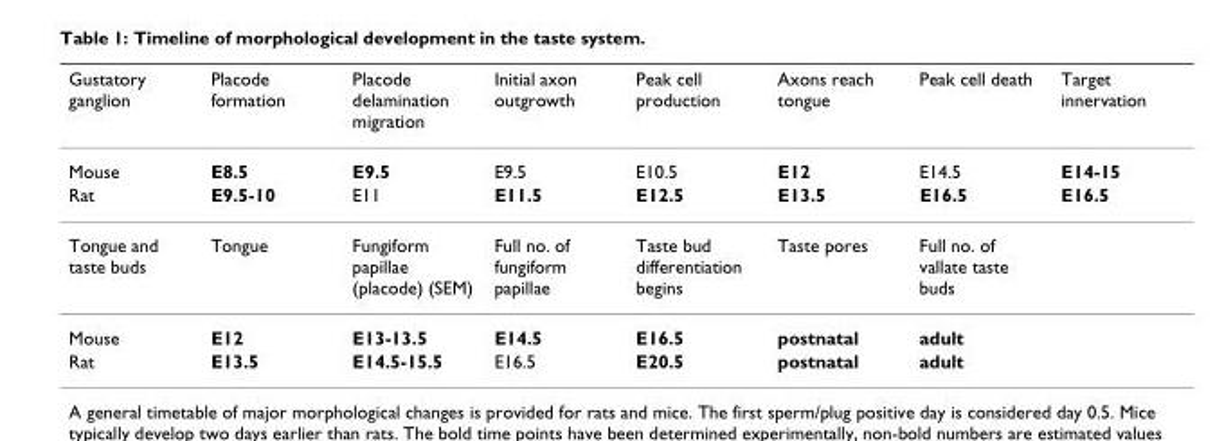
<table><thead><tr><td>Gustatory ganglion</td><td>Placode formation</td><td>Placode delamination migration</td><td>Initial axon outgrowth</td><td>Peak cell production</td><td>Axons reach tongue</td><td>Peak cell death</td><td>Target innervation</td></tr></thead><tbody><tr><td>Mouse</td><td>E8.5</td><td>E9.5</td><td>E9.5</td><td>E10.5</td><td>E12</td><td>E14.5</td><td>E14-15</td></tr><tr><td>Rat</td><td>E9.5-10</td><td>E11</td><td>E11.5</td><td>E12.5</td><td>E13.5</td><td>E16.5</td><td>E16.5</td></tr><tr><td>Tongue and taste buds</td><td>Tongue</td><td>Fungiform papillae (placode) (SEM)</td><td>Full no. of fungiform papillae</td><td>Taste bud differentiation begins</td><td>Taste pores</td><td>Full no. of vallate taste buds</td><td></td></tr><tr><td>Mouse</td><td>E12</td><td>E13-13.5</td><td>E14.5</td><td>E16.5</td><td>postnatal</td><td>adult</td><td></td></tr><tr><td>Rat</td><td>E13.5</td><td>E14.5-15.5</td><td>E16.5</td><td>E20.5</td><td>postnatal</td><td>adult</td><td></td></tr></tbody></table>